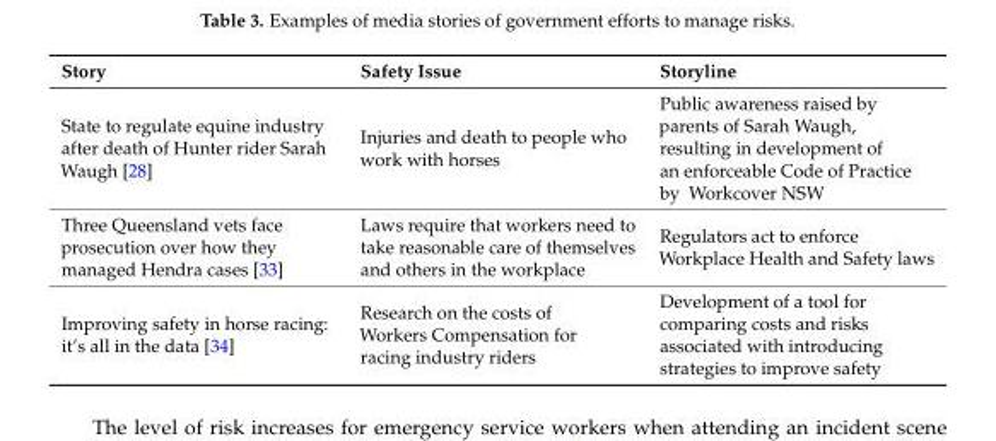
<table><thead><tr><td>Story</td><td>Safety Issue</td><td>Storyline</td></tr></thead><tbody><tr><td>State to regulate equine industry after death of Hunter rider Sarah Waugh [28]</td><td>Injuries and death to people who work with horses</td><td>Public awareness raised by parents of Sarah Waugh, resulting in development of an enforceable Code of Practice by Workcover NSW</td></tr><tr><td>Three Queensland vets face prosecution over how they managed Hendra cases [33]</td><td>Laws require that workers need to take reasonable care of themselves and others in the workplace</td><td>Regulators act to enforce Workplace Health and Safety laws</td></tr><tr><td>Improving safety in horse racing: it’s all in the data [34]</td><td>Research on the costs of Workers Compensation for racing industry riders</td><td>Development of a tool for comparing costs and risks associated with introducing strategies to improve safety</td></tr></tbody></table>